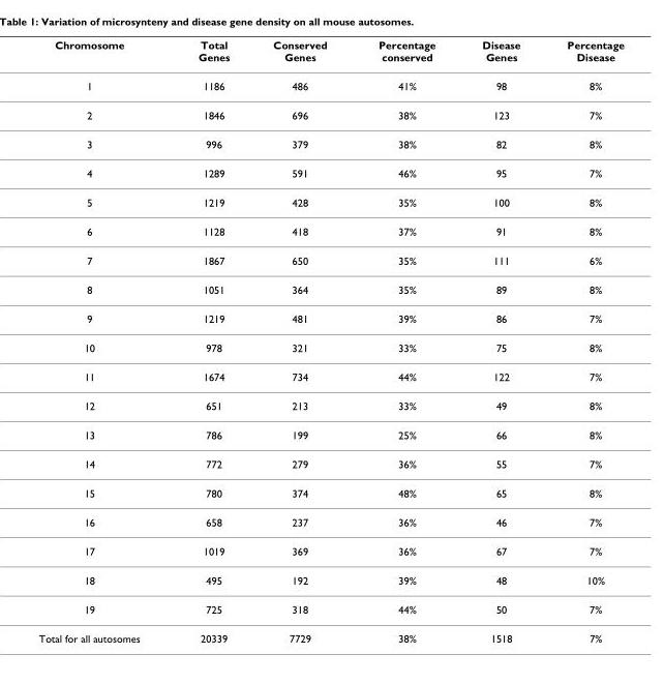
<table><thead><tr><td>Chromosome</td><td>Total Genes</td><td>Conserved Genes</td><td>Percentage conserved</td><td>Disease Genes</td><td>Percentage Disease</td></tr></thead><tbody><tr><td>1</td><td>1186</td><td>486</td><td>41%</td><td>98</td><td>8%</td></tr><tr><td>2</td><td>1846</td><td>696</td><td>38%</td><td>123</td><td>7%</td></tr><tr><td>3</td><td>996</td><td>379</td><td>38%</td><td>82</td><td>8%</td></tr><tr><td>4</td><td>1289</td><td>591</td><td>46%</td><td>95</td><td>7%</td></tr><tr><td>5</td><td>1219</td><td>428</td><td>35%</td><td>100</td><td>8%</td></tr><tr><td>6</td><td>1128</td><td>418</td><td>37%</td><td>91</td><td>8%</td></tr><tr><td>7</td><td>1867</td><td>650</td><td>35%</td><td>111</td><td>6%</td></tr><tr><td>8</td><td>1051</td><td>364</td><td>35%</td><td>89</td><td>8%</td></tr><tr><td>9</td><td>1219</td><td>481</td><td>39%</td><td>86</td><td>7%</td></tr><tr><td>10</td><td>978</td><td>321</td><td>33%</td><td>75</td><td>8%</td></tr><tr><td>11</td><td>1674</td><td>734</td><td>44%</td><td>122</td><td>7%</td></tr><tr><td>12</td><td>651</td><td>213</td><td>33%</td><td>49</td><td>8%</td></tr><tr><td>13</td><td>786</td><td>199</td><td>25%</td><td>66</td><td>8%</td></tr><tr><td>14</td><td>772</td><td>279</td><td>36%</td><td>55</td><td>7%</td></tr><tr><td>15</td><td>780</td><td>374</td><td>48%</td><td>65</td><td>8%</td></tr><tr><td>16</td><td>658</td><td>237</td><td>36%</td><td>46</td><td>7%</td></tr><tr><td>17</td><td>1019</td><td>369</td><td>36%</td><td>67</td><td>7%</td></tr><tr><td>18</td><td>495</td><td>192</td><td>39%</td><td>48</td><td>10%</td></tr><tr><td>19</td><td>725</td><td>318</td><td>44%</td><td>50</td><td>7%</td></tr><tr><td>Total for all autosomes</td><td>20339</td><td>7729</td><td>38%</td><td>1518</td><td>7%</td></tr></tbody></table>